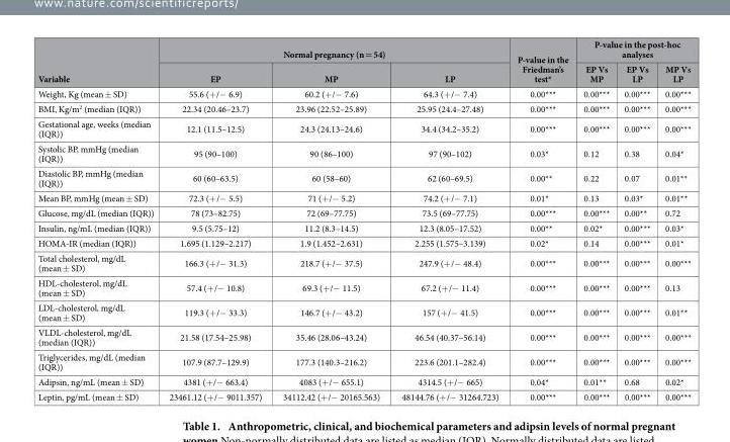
<table><thead><tr><td rowspan="2">Variable</td><td colspan="3">Normal pregnancy (n = 54)</td><td rowspan="2">P-value in the Friedman’s test*</td><td colspan="3">P-value in the post-hoc analyses</td></tr><tr><td>EP</td><td>MP</td><td>LP</td><td>EP Vs MP</td><td>EP Vs LP</td><td>MP Vs LP</td></tr></thead><tbody><tr><td>Weight, Kg (mean ± SD)</td><td>55.6 (+ /− 6.9)</td><td>60.2 (+ /− 7.6)</td><td>64.3 (+ /− 7.4)</td><td>0.00***</td><td>0.00***</td><td>0.00***</td><td>0.00***</td></tr><tr><td>BMI, Kg/m<sup>2</sup> (median (IQR))</td><td>22.34 (20.46–23.7)</td><td>23.96 (22.52–25.89)</td><td>25.95 (24.4–27.48)</td><td>0.00***</td><td>0.00***</td><td>0.00***</td><td>0.00***</td></tr><tr><td>Gestational age, weeks (median (IQR))</td><td>12.1 (11.5–12.5)</td><td>24.3 (24.13–24.6)</td><td>34.4 (34.2–35.2)</td><td>0.00***</td><td>0.00***</td><td>0.00***</td><td>0.00***</td></tr><tr><td>Systolic BP, mmHg (median (IQR))</td><td>95 (90–100)</td><td>90 (86–100)</td><td>97 (90–102)</td><td>0.03*</td><td>0.12</td><td>0.38</td><td>0.04*</td></tr><tr><td>Diastolic BP, mmHg (median (IQR))</td><td>60 (60–63.5)</td><td>60 (58–60)</td><td>62 (60–69.5)</td><td>0.00**</td><td>0.22</td><td>0.07</td><td>0.01**</td></tr><tr><td>Mean BP, mmHg (mean ± SD)</td><td>72.3 (+ /− 5.5)</td><td>71 (+ /− 5.2)</td><td>74.2 (+ /− 7.1)</td><td>0.01*</td><td>0.13</td><td>0.03*</td><td>0.01**</td></tr><tr><td>Glucose, mg/dL (median (IQR))</td><td>78 (73–82.75)</td><td>72 (69–77.75)</td><td>73.5 (69–77.75)</td><td>0.00***</td><td>0.00***</td><td>0.00**</td><td>0.72</td></tr><tr><td>Insulin, ng/mL (median (IQR))</td><td>9.5 (5.75–12)</td><td>11.2 (8.3–14.5)</td><td>12.3 (8.05–17.52)</td><td>0.00**</td><td>0.02*</td><td>0.00***</td><td>0.03*</td></tr><tr><td>HOMA-IR (median (IQR))</td><td>1.695 (1.129–2.217)</td><td>1.9 (1.452–2.631)</td><td>2.255 (1.575–3.139)</td><td>0.02*</td><td>0.14</td><td>0.00***</td><td>0.01*</td></tr><tr><td>Total cholesterol, mg/dL (mean ± SD)</td><td>166.3 (+ /− 31.3)</td><td>218.7 (+ /− 37.5)</td><td>247.9 (+ /− 48.4)</td><td>0.00***</td><td>0.00***</td><td>0.00***</td><td>0.00***</td></tr><tr><td>HDL-cholesterol, mg/dL (mean ± SD)</td><td>57.4 (+ /− 10.8)</td><td>69.3 (+ /− 11.5)</td><td>67.2 (+ /− 11.4)</td><td>0.00***</td><td>0.00***</td><td>0.00***</td><td>0.13</td></tr><tr><td>LDL-cholesterol, mg/dL (mean ± SD)</td><td>119.3 (+ /− 33.3)</td><td>146.7 (+ /− 43.2)</td><td>157 (+ /− 41.5)</td><td>0.00***</td><td>0.00***</td><td>0.00***</td><td>0.01**</td></tr><tr><td>VLDL-cholesterol, mg/dL (median (IQR))</td><td>21.58 (17.54–25.98)</td><td>35.46 (28.06–43.24)</td><td>46.54 (40.37–56.14)</td><td>0.00***</td><td>0.00***</td><td>0.00***</td><td>0.00***</td></tr><tr><td>Triglycerides, mg/dL (median (IQR))</td><td>107.9 (87.7–129.9)</td><td>177.3 (140.3–216.2)</td><td>223.6 (201.1–282.4)</td><td>0.00***</td><td>0.00***</td><td>0.00***</td><td>0.00***</td></tr><tr><td>Adipsin, ng/mL (mean ± SD)</td><td>4381 (+ /− 663.4)</td><td>4083 (+ /− 655.1)</td><td>4314.5 (+ /− 665)</td><td>0.04*</td><td>0.01**</td><td>0.68</td><td>0.02*</td></tr><tr><td>Leptin, pg/mL (mean ± SD)</td><td>23461.12 (+ /− 9011.357)</td><td>34112.42 (+ /− 20165.563)</td><td>48144.76 (+ /− 31264.723)</td><td>0.00***</td><td>0.00***</td><td>0.00***</td><td>0.00***</td></tr></tbody></table>